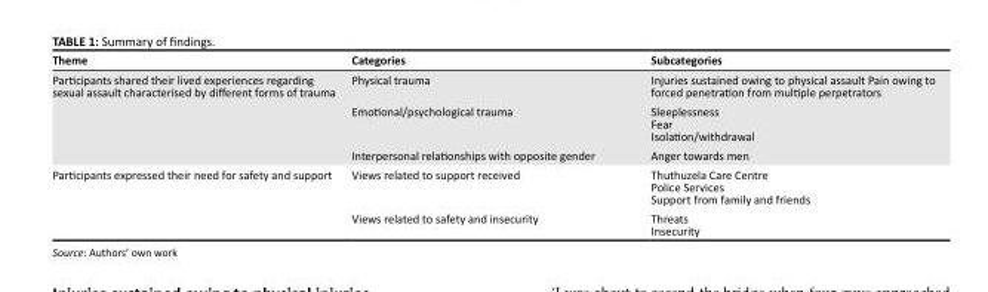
<table><thead><tr><td>Theme</td><td>Categories</td><td>Subcategories</td></tr></thead><tbody><tr><td rowspan="3">Participants shared their lived experiences regarding sexual assault characterised by different forms of trauma</td><td>Physical trauma</td><td>Injuries sustained owing to physical assault Pain owing to forced penetration from multiple perpetrators</td></tr><tr><td>Emotional/psychological trauma</td><td>Sleeplessness Fear Isolation/withdrawal</td></tr><tr><td>Interpersonal relationships with opposite gender</td><td>Anger towards men</td></tr><tr><td rowspan="2">Participants expressed their need for safety and support</td><td>Views related to support received</td><td>Thuthuzela Care Centre Police Services Support from family and friends</td></tr><tr><td>Views related to safety and insecurity</td><td>Threats Insecurity</td></tr></tbody></table>